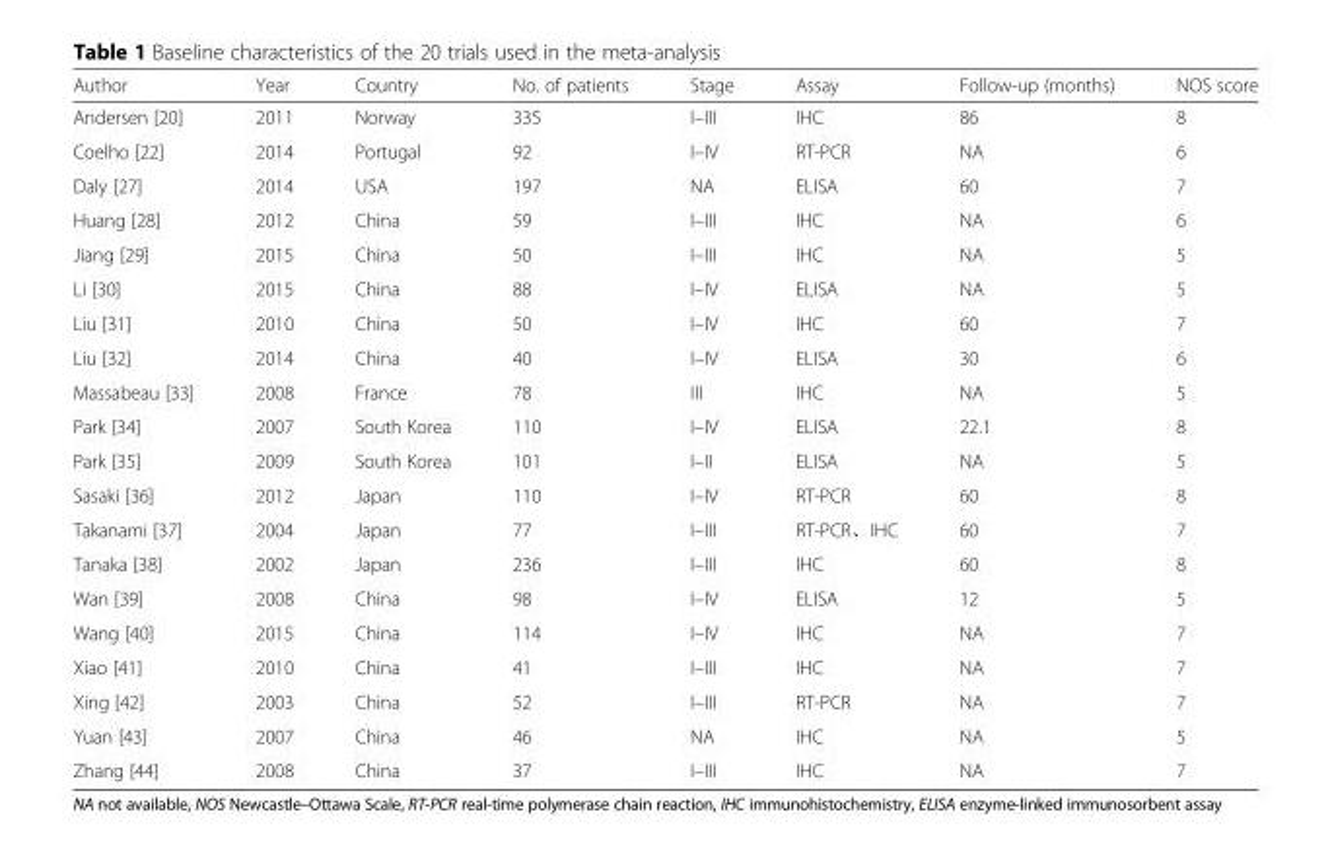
<table><thead><tr><td>Author</td><td>Year</td><td>Country</td><td>No. of patients</td><td>Stage</td><td>Assay</td><td>Follow-up (months)</td><td>NOS score</td></tr></thead><tbody><tr><td>Andersen [20]</td><td>2011</td><td>Norway</td><td>335</td><td>I–III</td><td>IHC</td><td>86</td><td>8</td></tr><tr><td>Coelho [22]</td><td>2014</td><td>Portugal</td><td>92</td><td>I–IV</td><td>RT-PCR</td><td>NA</td><td>6</td></tr><tr><td>Daly [27]</td><td>2014</td><td>USA</td><td>197</td><td>NA</td><td>ELISA</td><td>60</td><td>7</td></tr><tr><td>Huang [28]</td><td>2012</td><td>China</td><td>59</td><td>I–III</td><td>IHC</td><td>NA</td><td>6</td></tr><tr><td>Jiang [29]</td><td>2015</td><td>China</td><td>50</td><td>I–III</td><td>IHC</td><td>NA</td><td>5</td></tr><tr><td>Li [30]</td><td>2015</td><td>China</td><td>88</td><td>I–IV</td><td>ELISA</td><td>NA</td><td>5</td></tr><tr><td>Liu [31]</td><td>2010</td><td>China</td><td>50</td><td>I–IV</td><td>IHC</td><td>60</td><td>7</td></tr><tr><td>Liu [32]</td><td>2014</td><td>China</td><td>40</td><td>I–IV</td><td>ELISA</td><td>30</td><td>6</td></tr><tr><td>Massabeau [33]</td><td>2008</td><td>France</td><td>78</td><td>III</td><td>IHC</td><td>NA</td><td>5</td></tr><tr><td>Park [34]</td><td>2007</td><td>South Korea</td><td>110</td><td>I–IV</td><td>ELISA</td><td>22.1</td><td>8</td></tr><tr><td>Park [35]</td><td>2009</td><td>South Korea</td><td>101</td><td>I–II</td><td>ELISA</td><td>NA</td><td>5</td></tr><tr><td>Sasaki [36]</td><td>2012</td><td>Japan</td><td>110</td><td>I–IV</td><td>RT-PCR</td><td>60</td><td>8</td></tr><tr><td>Takanami [37]</td><td>2004</td><td>Japan</td><td>77</td><td>I–III</td><td>RT-PCR、IHC</td><td>60</td><td>7</td></tr><tr><td>Tanaka [38]</td><td>2002</td><td>Japan</td><td>236</td><td>I–III</td><td>IHC</td><td>60</td><td>8</td></tr><tr><td>Wan [39]</td><td>2008</td><td>China</td><td>98</td><td>I–IV</td><td>ELISA</td><td>12</td><td>5</td></tr><tr><td>Wang [40]</td><td>2015</td><td>China</td><td>114</td><td>I–IV</td><td>IHC</td><td>NA</td><td>7</td></tr><tr><td>Xiao [41]</td><td>2010</td><td>China</td><td>41</td><td>I–III</td><td>IHC</td><td>NA</td><td>7</td></tr><tr><td>Xing [42]</td><td>2003</td><td>China</td><td>52</td><td>I–III</td><td>RT-PCR</td><td>NA</td><td>7</td></tr><tr><td>Yuan [43]</td><td>2007</td><td>China</td><td>46</td><td>NA</td><td>IHC</td><td>NA</td><td>5</td></tr><tr><td>Zhang [44]</td><td>2008</td><td>China</td><td>37</td><td>I–III</td><td>IHC</td><td>NA</td><td>7</td></tr></tbody></table>